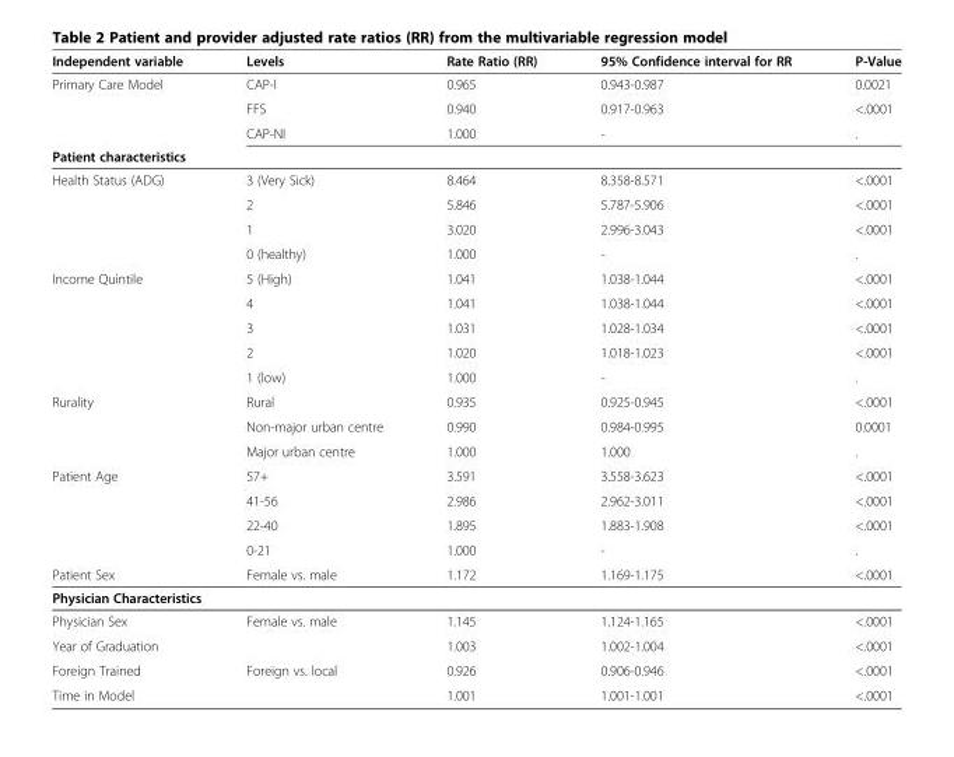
<table><thead><tr><td>Independent variable</td><td>Levels</td><td>Rate Ratio (RR)</td><td>95% Confidence interval for RR</td><td>P-Value</td></tr></thead><tbody><tr><td rowspan="3">Primary Care Model</td><td>CAP-I</td><td>0.965</td><td>0.943-0.987</td><td>0.0021</td></tr><tr><td>FFS</td><td>0.940</td><td>0.917-0.963</td><td>&lt;.0001</td></tr><tr><td>CAP-NI</td><td>1.000</td><td>-</td><td>.</td></tr><tr><td colspan="5">Patient characteristics</td></tr><tr><td rowspan="4">Health Status (ADG)</td><td>3 (Very Sick)</td><td>8.464</td><td>8.358-8.571</td><td>&lt;.0001</td></tr><tr><td>2</td><td>5.846</td><td>5.787-5.906</td><td>&lt;.0001</td></tr><tr><td>1</td><td>3.020</td><td>2.996-3.043</td><td>&lt;.0001</td></tr><tr><td>0 (healthy)</td><td>1.000</td><td>-</td><td>.</td></tr><tr><td rowspan="5">Income Quintile</td><td>5 (High)</td><td>1.041</td><td>1.038-1.044</td><td>&lt;.0001</td></tr><tr><td>4</td><td>1.041</td><td>1.038-1.044</td><td>&lt;.0001</td></tr><tr><td>3</td><td>1.031</td><td>1.028-1.034</td><td>&lt;.0001</td></tr><tr><td>2</td><td>1.020</td><td>1.018-1.023</td><td>&lt;.0001</td></tr><tr><td>1 (low)</td><td>1.000</td><td>-</td><td>.</td></tr><tr><td rowspan="3">Rurality</td><td>Rural</td><td>0.935</td><td>0.925-0.945</td><td>&lt;.0001</td></tr><tr><td>Non-major urban centre</td><td>0.990</td><td>0.984-0.995</td><td>0.0001</td></tr><tr><td>Major urban centre</td><td>1.000</td><td>1.000</td><td>.</td></tr><tr><td rowspan="4">Patient Age</td><td>57+</td><td>3.591</td><td>3.558-3.623</td><td>&lt;.0001</td></tr><tr><td>41-56</td><td>2.986</td><td>2.962-3.011</td><td>&lt;.0001</td></tr><tr><td>22-40</td><td>1.895</td><td>1.883-1.908</td><td>&lt;.0001</td></tr><tr><td>0-21</td><td>1.000</td><td>-</td><td>.</td></tr><tr><td>Patient Sex</td><td>Female vs. male</td><td>1.172</td><td>1.169-1.175</td><td>&lt;.0001</td></tr><tr><td colspan="5">Physician Characteristics</td></tr><tr><td>Physician Sex</td><td>Female vs. male</td><td>1.145</td><td>1.124-1.165</td><td>&lt;.0001</td></tr><tr><td>Year of Graduation</td><td></td><td>1.003</td><td>1.002-1.004</td><td>&lt;.0001</td></tr><tr><td>Foreign Trained</td><td>Foreign vs. local</td><td>0.926</td><td>0.906-0.946</td><td>&lt;.0001</td></tr><tr><td>Time in Model</td><td></td><td>1.001</td><td>1.001-1.001</td><td>&lt;.0001</td></tr></tbody></table>